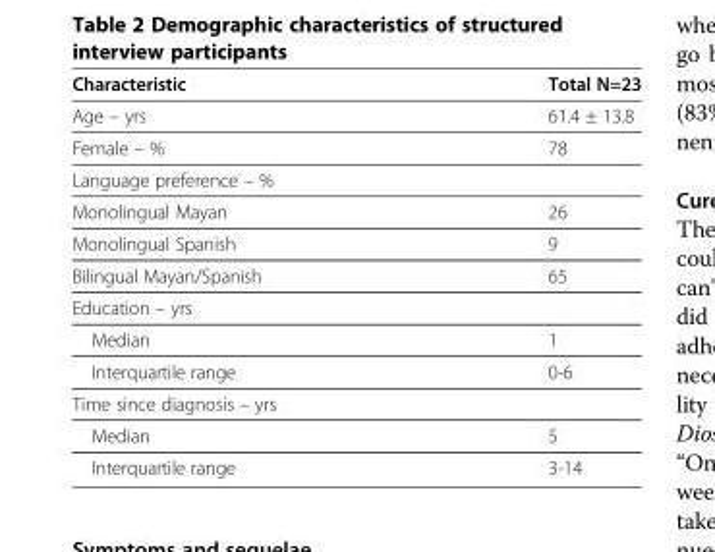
<table><thead><tr><td>Characteristic</td><td>Total N=23</td></tr></thead><tbody><tr><td>Age – yrs</td><td>61.4 ± 13.8</td></tr><tr><td>Female – %</td><td>78</td></tr><tr><td colspan="2">Language preference – %</td></tr><tr><td>Monolingual Mayan</td><td>26</td></tr><tr><td>Monolingual Spanish</td><td>9</td></tr><tr><td>Bilingual Mayan/Spanish</td><td>65</td></tr><tr><td colspan="2">Education – yrs</td></tr><tr><td>Median</td><td>1</td></tr><tr><td>Interquartile range</td><td>0-6</td></tr><tr><td colspan="2">Time since diagnosis – yrs</td></tr><tr><td>Median</td><td>5</td></tr><tr><td>Interquartile range</td><td>3-14</td></tr></tbody></table>